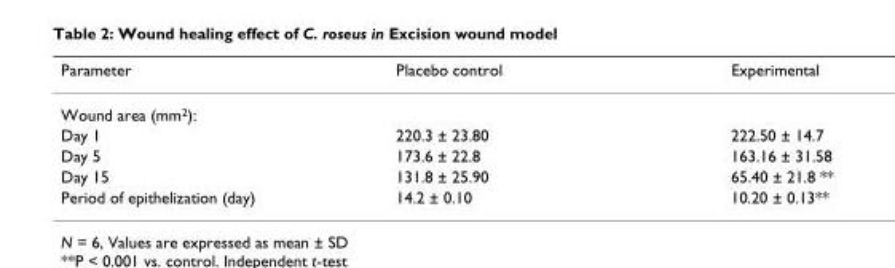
<table><thead><tr><td>Parameter</td><td>Placebo control</td><td>Experimental</td></tr></thead><tbody><tr><td colspan="3">Wound area (mm<sup>2</sup>):</td></tr><tr><td>Day 1</td><td>220.3 ± 23.80</td><td>222.50 ± 14.7</td></tr><tr><td>Day 5</td><td>173.6 ± 22.8</td><td>163.16 ± 31.58</td></tr><tr><td>Day 15</td><td>131.8 ± 25.90</td><td>65.40 ± 21.8 **</td></tr><tr><td>Period of epithelization (day)</td><td>14.2 ± 0.10</td><td>10.20 ± 0.13**</td></tr></tbody></table>